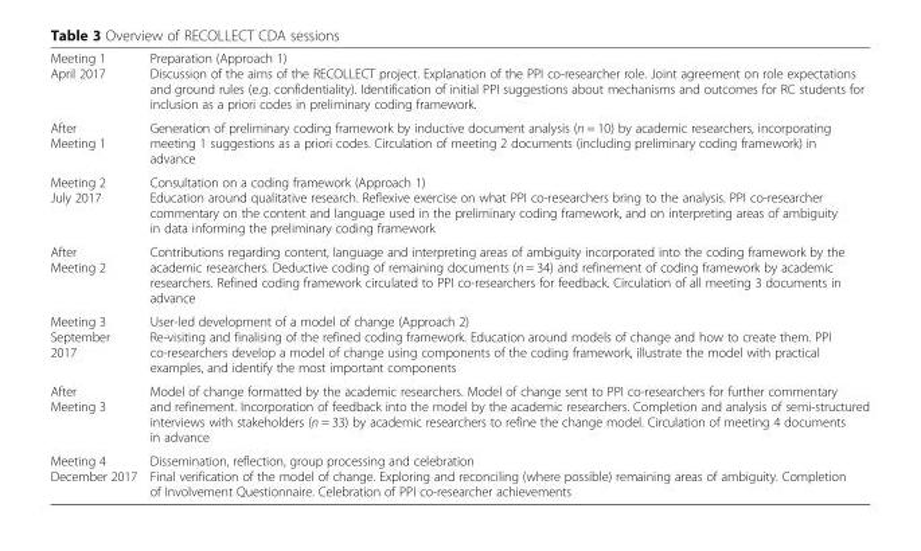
<table><tbody><tr><td>Meeting 1 April 2017</td><td>Preparation (Approach 1) Discussion of the aims of the RECOLLECT project. Explanation of the PPI co-researcher role. Joint agreement on role expectations and ground rules (e.g. confidentiality). Identification of initial PPI suggestions about mechanisms and outcomes for RC students for inclusion as a priori codes in preliminary coding framework.</td></tr><tr><td>After Meeting 1</td><td>Generation of preliminary coding framework by inductive document analysis (n = 10) by academic researchers, incorporating meeting 1 suggestions as a priori codes. Circulation of meeting 2 documents (including preliminary coding framework) in advance</td></tr><tr><td>Meeting 2 July 2017</td><td>Consultation on a coding framework (Approach 1) Education around qualitative research. Reflexive exercise on what PPI co-researchers bring to the analysis. PPI co-researcher commentary on the content and language used in the preliminary coding framework, and on interpreting areas of ambiguity in data informing the preliminary coding framework</td></tr><tr><td>After Meeting 2</td><td>Contributions regarding content, language and interpreting areas of ambiguity incorporated into the coding framework by the academic researchers. Deductive coding of remaining documents (n = 34) and refinement of coding framework by academic researchers. Refined coding framework circulated to PPI co-researchers for feedback. Circulation of all meeting 3 documents in advance</td></tr><tr><td>Meeting 3 September 2017</td><td>User-led development of a model of change (Approach 2) Re-visiting and finalising of the refined coding framework. Education around models of change and how to create them. PPI co-researchers develop a model of change using components of the coding framework, illustrate the model with practical examples, and identify the most important components</td></tr><tr><td>After Meeting 3</td><td>Model of change formatted by the academic researchers. Model of change sent to PPI co-researchers for further commentary and refinement. Incorporation of feedback into the model by the academic researchers. Completion and analysis of semi-structured interviews with stakeholders (n = 33) by academic researchers to refine the change model. Circulation of meeting 4 documents in advance</td></tr><tr><td>Meeting 4 December 2017</td><td>Dissemination, reflection, group processing and celebration Final verification of the model of change. Exploring and reconciling (where possible) remaining areas of ambiguity. Completion of Involvement Questionnaire. Celebration of PPI co-researcher achievements</td></tr></tbody></table>